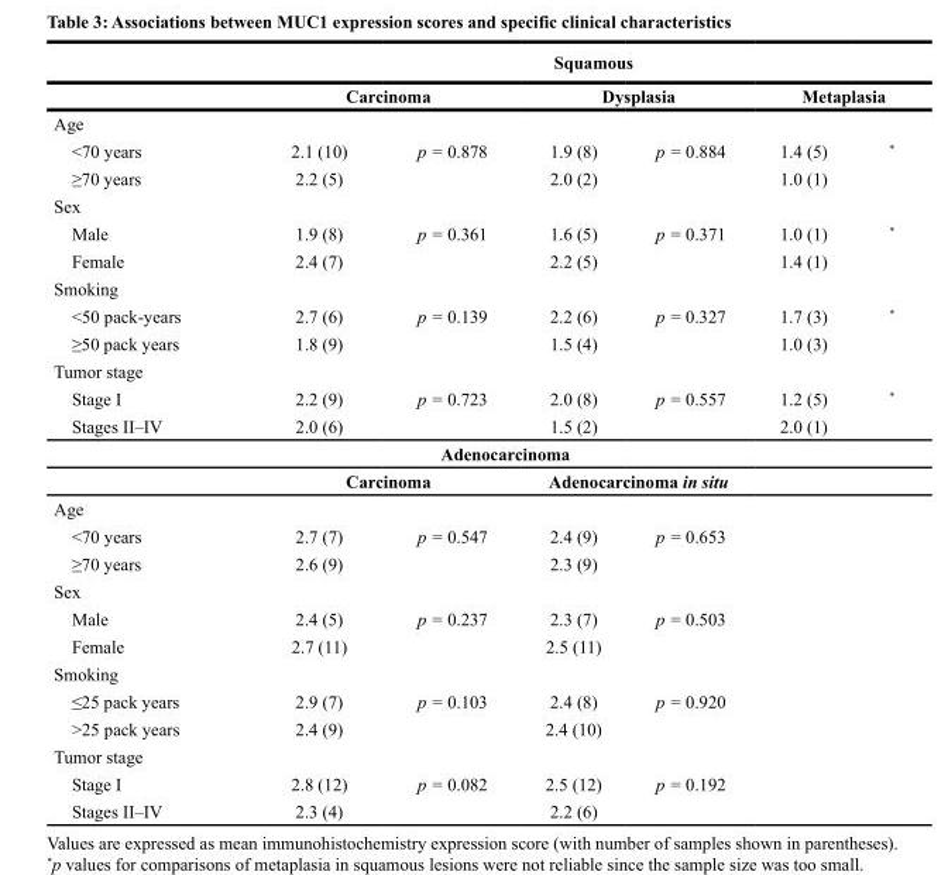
<table><thead><tr><td rowspan="3">Age</td><td colspan="6">Squamous</td></tr><tr><td colspan="2">Carcinoma</td><td colspan="2">Dysplasia</td><td colspan="2">Metaplasia</td></tr><tr><td></td><td></td><td></td><td></td><td></td><td></td></tr></thead><tbody><tr><td>&lt;70 years</td><td>2.1 (10)</td><td>p = 0.878</td><td>1.9 (8)</td><td>p = 0.884</td><td>1.4 (5)</td><td>*</td></tr><tr><td>≥70 years</td><td>2.2 (5)</td><td></td><td>2.0 (2)</td><td></td><td>1.0 (1)</td><td></td></tr><tr><td colspan="7">Sex</td></tr><tr><td>Male</td><td>1.9 (8)</td><td>p = 0.361</td><td>1.6 (5)</td><td>p = 0.371</td><td>1.0 (1)</td><td>*</td></tr><tr><td>Female</td><td>2.4 (7)</td><td></td><td>2.2 (5)</td><td></td><td>1.4 (1)</td><td></td></tr><tr><td colspan="7">Smoking</td></tr><tr><td>&lt;50 pack-years</td><td>2.7 (6)</td><td>p = 0.139</td><td>2.2 (6)</td><td>p = 0.327</td><td>1.7 (3)</td><td>*</td></tr><tr><td>≥50 pack years</td><td>1.8 (9)</td><td></td><td>1.5 (4)</td><td></td><td>1.0 (3)</td><td></td></tr><tr><td colspan="7">Tumor stage</td></tr><tr><td>Stage I</td><td>2.2 (9)</td><td>p = 0.723</td><td>2.0 (8)</td><td>p = 0.557</td><td>1.2 (5)</td><td>*</td></tr><tr><td>Stages II–IV</td><td>2.0 (6)</td><td></td><td>1.5 (2)</td><td></td><td>2.0 (1)</td><td></td></tr><tr><td colspan="7">Adenocarcinoma</td></tr><tr><td></td><td colspan="2">Carcinoma</td><td colspan="2">Adenocarcinoma in situ</td><td colspan="2"></td></tr><tr><td colspan="7">Age</td></tr><tr><td>&lt;70 years</td><td>2.7 (7)</td><td>p = 0.547</td><td>2.4 (9)</td><td>p = 0.653</td><td></td><td></td></tr><tr><td>≥70 years</td><td>2.6 (9)</td><td></td><td>2.3 (9)</td><td></td><td></td><td></td></tr><tr><td colspan="7">Sex</td></tr><tr><td>Male</td><td>2.4 (5)</td><td>p = 0.237</td><td>2.3 (7)</td><td>p = 0.503</td><td></td><td></td></tr><tr><td>Female</td><td>2.7 (11)</td><td></td><td>2.5 (11)</td><td></td><td></td><td></td></tr><tr><td colspan="7">Smoking</td></tr><tr><td>≤25 pack years</td><td>2.9 (7)</td><td>p = 0.103</td><td>2.4 (8)</td><td>p = 0.920</td><td></td><td></td></tr><tr><td>&gt;25 pack years</td><td>2.4 (9)</td><td></td><td>2.4 (10)</td><td></td><td></td><td></td></tr><tr><td colspan="7">Tumor stage</td></tr><tr><td>Stage I</td><td>2.8 (12)</td><td>p = 0.082</td><td>2.5 (12)</td><td>p = 0.192</td><td></td><td></td></tr><tr><td>Stages II–IV</td><td>2.3 (4)</td><td></td><td>2.2 (6)</td><td></td><td></td><td></td></tr></tbody></table>